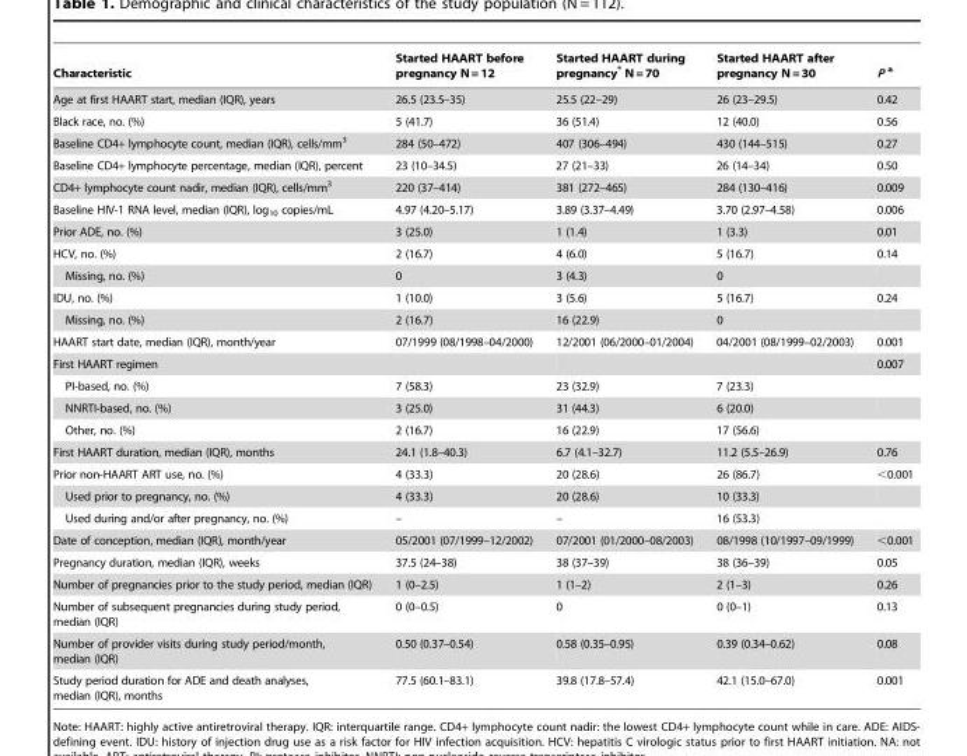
<table><thead><tr><td>Characteristic</td><td>Started HAART before pregnancy N =12</td><td>Started HAART during pregnancy* N=70</td><td>Started HAART after pregnancy N =30</td><td>P a</td></tr></thead><tbody><tr><td>Age at first HAART start, median (IQR), years</td><td>26.5 (23.5–35)</td><td>25.5 (22–29)</td><td>26 (23–29.5)</td><td>0.42</td></tr><tr><td>Black race, no. (%)</td><td>5 (41.7)</td><td>36 (51.4)</td><td>12 (40.0)</td><td>0.56</td></tr><tr><td>Baseline CD4+ lymphocyte count, median (IQR), cells/mm<sup>3</sup></td><td>284 (50–472)</td><td>407 (306–494)</td><td>430 (144–515)</td><td>0.27</td></tr><tr><td>Baseline CD4+ lymphocyte percentage, median (IQR), percent</td><td>23 (10–34.5)</td><td>27 (21–33)</td><td>26 (14–34)</td><td>0.50</td></tr><tr><td>CD4+ lymphocyte count nadir, median (IQR), cells/mm<sup>3</sup></td><td>220 (37–414)</td><td>381 (272–465)</td><td>284 (130–416)</td><td>0.009</td></tr><tr><td>Baseline HIV-1 RNA level, median (IQR), log<sub>10</sub> copies/mL</td><td>4.97 (4.20–5.17)</td><td>3.89 (3.37–4.49)</td><td>3.70 (2.97–4.58)</td><td>0.006</td></tr><tr><td>Prior ADE, no. (%)</td><td>3 (25.0)</td><td>1 (1.4)</td><td>1 (3.3)</td><td>0.01</td></tr><tr><td>HCV, no. (%)</td><td>2 (16.7)</td><td>4 (6.0)</td><td>5 (16.7)</td><td>0.14</td></tr><tr><td>Missing, no. (%)</td><td>0</td><td>3 (4.3)</td><td>0</td><td></td></tr><tr><td>IDU, no. (%)</td><td>1 (10.0)</td><td>3 (5.6)</td><td>5 (16.7)</td><td>0.24</td></tr><tr><td>Missing, no. (%)</td><td>2 (16.7)</td><td>16 (22.9)</td><td>0</td><td></td></tr><tr><td>HAART start date, median (IQR), month/year</td><td>07/1999 (08/1998–04/2000)</td><td>12/2001 (06/2000–01/2004)</td><td>04/2001 (08/1999–02/2003)</td><td>0.001</td></tr><tr><td>First HAART regimen</td><td></td><td></td><td></td><td>0.007</td></tr><tr><td>PI-based, no. (%)</td><td>7 (58.3)</td><td>23 (32.9)</td><td>7 (23.3)</td><td></td></tr><tr><td>NNRTI-based, no. (%)</td><td>3 (25.0)</td><td>31 (44.3)</td><td>6 (20.0)</td><td></td></tr><tr><td>Other, no. (%)</td><td>2 (16.7)</td><td>16 (22.9)</td><td>17 (56.6)</td><td></td></tr><tr><td>First HAART duration, median (IQR), months</td><td>24.1 (1.8–40.3)</td><td>6.7 (4.1–32.7)</td><td>11.2 (5.5–26.9)</td><td>0.76</td></tr><tr><td>Prior non-HAART ART use, no. (%)</td><td>4 (33.3)</td><td>20 (28.6)</td><td>26 (86.7)</td><td>&lt;0.001</td></tr><tr><td>Used prior to pregnancy, no. (%)</td><td>4 (33.3)</td><td>20 (28.6)</td><td>10 (33.3)</td><td></td></tr><tr><td>Used during and/or after pregnancy, no. (%)</td><td>–</td><td>–</td><td>16 (53.3)</td><td></td></tr><tr><td>Date of conception, median (IQR), month/year</td><td>05/2001 (07/1999–12/2002)</td><td>07/2001 (01/2000–08/2003)</td><td>08/1998 (10/1997–09/1999)</td><td>&lt;0.001</td></tr><tr><td>Pregnancy duration, median (IQR), weeks</td><td>37.5 (24–38)</td><td>38 (37–39)</td><td>38 (36–39)</td><td>0.05</td></tr><tr><td>Number of pregnancies prior to the study period, median (IQR)</td><td>1 (0–2.5)</td><td>1 (1–2)</td><td>2 (1–3)</td><td>0.26</td></tr><tr><td>Number of subsequent pregnancies during study period, median (IQR)</td><td>0 (0–0.5)</td><td>0</td><td>0 (0–1)</td><td>0.13</td></tr><tr><td>Number of provider visits during study period/month, median (IQR)</td><td>0.50 (0.37–0.54)</td><td>0.58 (0.35–0.95)</td><td>0.39 (0.34–0.62)</td><td>0.08</td></tr><tr><td>Study period duration for ADE and death analyses, median (IQR), months</td><td>77.5 (60.1–83.1)</td><td>39.8 (17.8–57.4)</td><td>42.1 (15.0–67.0)</td><td>0.001</td></tr></tbody></table>